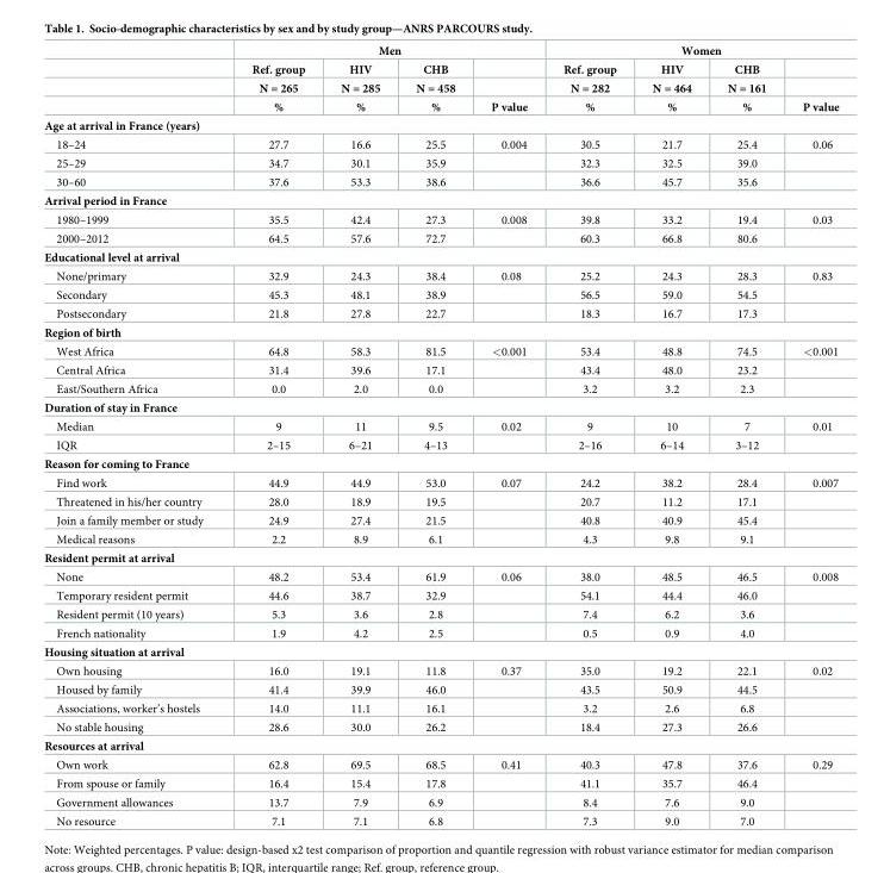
<table><thead><tr><td rowspan="4"></td><td colspan="4">Men</td><td colspan="4">Women</td></tr><tr><td rowspan="3">Ref. group N = 265 %</td><td rowspan="3">HIV N = 285 %</td><td rowspan="3">CHB N = 458 %</td><td rowspan="3">P value</td><td rowspan="3">Ref. group N = 282 %</td><td rowspan="3">HIV N = 464 %</td><td rowspan="3">CHB N = 161 %</td><td rowspan="3">P value</td></tr><tr></tr><tr></tr></thead><tbody><tr><td colspan="9">Age at arrival in France (years)</td></tr><tr><td>18–24</td><td>27.7</td><td>16.6</td><td>25.5</td><td>0.004</td><td>30.5</td><td>21.7</td><td>25.4</td><td>0.06</td></tr><tr><td>25–29</td><td>34.7</td><td>30.1</td><td>35.9</td><td></td><td>32.3</td><td>32.5</td><td>39.0</td><td></td></tr><tr><td>30–60</td><td>37.6</td><td>53.3</td><td>38.6</td><td></td><td>36.6</td><td>45.7</td><td>35.6</td><td></td></tr><tr><td colspan="9">Arrival period in France</td></tr><tr><td>1980–1999</td><td>35.5</td><td>42.4</td><td>27.3</td><td>0.008</td><td>39.8</td><td>33.2</td><td>19.4</td><td>0.03</td></tr><tr><td>2000–2012</td><td>64.5</td><td>57.6</td><td>72.7</td><td></td><td>60.3</td><td>66.8</td><td>80.6</td><td></td></tr><tr><td colspan="9">Educational level at arrival</td></tr><tr><td>None/primary</td><td>32.9</td><td>24.3</td><td>38.4</td><td>0.08</td><td>25.2</td><td>24.3</td><td>28.3</td><td>0.83</td></tr><tr><td>Secondary</td><td>45.3</td><td>48.1</td><td>38.9</td><td></td><td>56.5</td><td>59.0</td><td>54.5</td><td></td></tr><tr><td>Postsecondary</td><td>21.8</td><td>27.8</td><td>22.7</td><td></td><td>18.3</td><td>16.7</td><td>17.3</td><td></td></tr><tr><td colspan="9">Region of birth</td></tr><tr><td>West Africa</td><td>64.8</td><td>58.3</td><td>81.5</td><td>&lt;0.001</td><td>53.4</td><td>48.8</td><td>74.5</td><td>&lt;0.001</td></tr><tr><td>Central Africa</td><td>31.4</td><td>39.6</td><td>17.1</td><td></td><td>43.4</td><td>48.0</td><td>23.2</td><td></td></tr><tr><td>East/Southern Africa</td><td>0.0</td><td>2.0</td><td>0.0</td><td></td><td>3.2</td><td>3.2</td><td>2.3</td><td></td></tr><tr><td colspan="9">Duration of stay in France</td></tr><tr><td>Median</td><td>9</td><td>11</td><td>9.5</td><td>0.02</td><td>9</td><td>10</td><td>7</td><td>0.01</td></tr><tr><td>IQR</td><td>2–15</td><td>6–21</td><td>4–13</td><td></td><td>2–16</td><td>6–14</td><td>3–12</td><td></td></tr><tr><td colspan="9">Reason for coming to France</td></tr><tr><td>Find work</td><td>44.9</td><td>44.9</td><td>53.0</td><td>0.07</td><td>24.2</td><td>38.2</td><td>28.4</td><td>0.007</td></tr><tr><td>Threatened in his/her country</td><td>28.0</td><td>18.9</td><td>19.5</td><td></td><td>20.7</td><td>11.2</td><td>17.1</td><td></td></tr><tr><td>Join a family member or study</td><td>24.9</td><td>27.4</td><td>21.5</td><td></td><td>40.8</td><td>40.9</td><td>45.4</td><td></td></tr><tr><td>Medical reasons</td><td>2.2</td><td>8.9</td><td>6.1</td><td></td><td>4.3</td><td>9.8</td><td>9.1</td><td></td></tr><tr><td colspan="9">Resident permit at arrival</td></tr><tr><td>None</td><td>48.2</td><td>53.4</td><td>61.9</td><td>0.06</td><td>38.0</td><td>48.5</td><td>46.5</td><td>0.008</td></tr><tr><td>Temporary resident permit</td><td>44.6</td><td>38.7</td><td>32.9</td><td></td><td>54.1</td><td>44.4</td><td>46.0</td><td></td></tr><tr><td>Resident permit (10 years)</td><td>5.3</td><td>3.6</td><td>2.8</td><td></td><td>7.4</td><td>6.2</td><td>3.6</td><td></td></tr><tr><td>French nationality</td><td>1.9</td><td>4.2</td><td>2.5</td><td></td><td>0.5</td><td>0.9</td><td>4.0</td><td></td></tr><tr><td colspan="9">Housing situation at arrival</td></tr><tr><td>Own housing</td><td>16.0</td><td>19.1</td><td>11.8</td><td>0.37</td><td>35.0</td><td>19.2</td><td>22.1</td><td>0.02</td></tr><tr><td>Housed by family</td><td>41.4</td><td>39.9</td><td>46.0</td><td></td><td>43.5</td><td>50.9</td><td>44.5</td><td></td></tr><tr><td>Associations, worker’s hostels</td><td>14.0</td><td>11.1</td><td>16.1</td><td></td><td>3.2</td><td>2.6</td><td>6.8</td><td></td></tr><tr><td>No stable housing</td><td>28.6</td><td>30.0</td><td>26.2</td><td></td><td>18.4</td><td>27.3</td><td>26.6</td><td></td></tr><tr><td colspan="9">Resources at arrival</td></tr><tr><td>Own work</td><td>62.8</td><td>69.5</td><td>68.5</td><td>0.41</td><td>40.3</td><td>47.8</td><td>37.6</td><td>0.29</td></tr><tr><td>From spouse or family</td><td>16.4</td><td>15.4</td><td>17.8</td><td></td><td>41.1</td><td>35.7</td><td>46.4</td><td></td></tr><tr><td>Government allowances</td><td>13.7</td><td>7.9</td><td>6.9</td><td></td><td>8.4</td><td>7.6</td><td>9.0</td><td></td></tr><tr><td>No resource</td><td>7.1</td><td>7.1</td><td>6.8</td><td></td><td>7.3</td><td>9.0</td><td>7.0</td><td></td></tr></tbody></table>